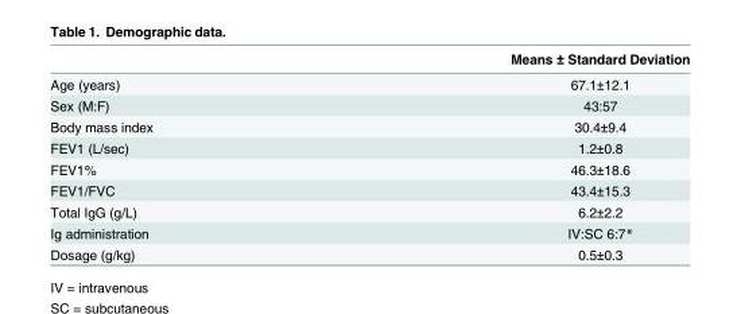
<table><thead><tr><td></td><td>Means ± Standard Deviation</td></tr></thead><tbody><tr><td>Age (years)</td><td>67.1±12.1</td></tr><tr><td>Sex (M:F)</td><td>43:57</td></tr><tr><td>Body mass index</td><td>30.4±9.4</td></tr><tr><td>FEV1 (L/sec)</td><td>1.2±0.8</td></tr><tr><td>FEV1%</td><td>46.3±18.6</td></tr><tr><td>FEV1/FVC</td><td>43.4±15.3</td></tr><tr><td>Total IgG (g/L)</td><td>6.2±2.2</td></tr><tr><td>Ig administration</td><td>IV:SC 6:7*</td></tr><tr><td>Dosage (g/kg)</td><td>0.5±0.3</td></tr></tbody></table>